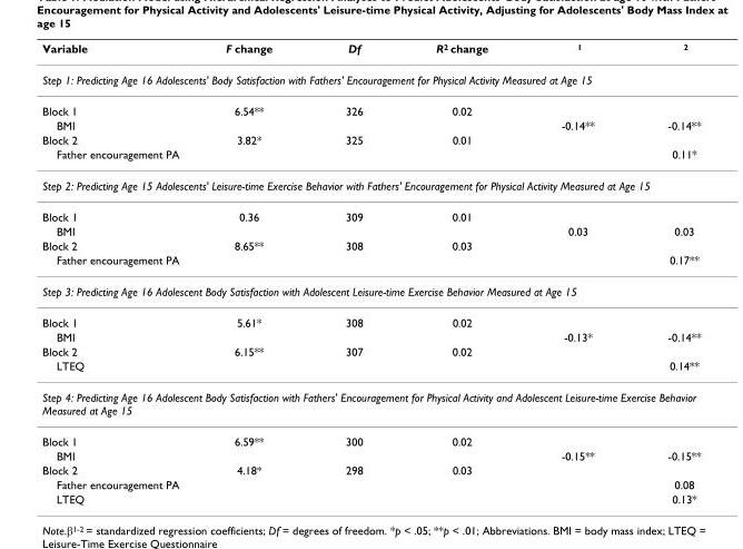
<table><thead><tr><td>Variable</td><td>F change</td><td>Df</td><td>R2 change</td><td>1</td><td>2</td></tr></thead><tbody><tr><td colspan="6">Step 1: Predicting Age 16 Adolescents&#x27; Body Satisfaction with Fathers&#x27; Encouragement for Physical Activity Measured at Age 15</td></tr><tr><td>Block 1</td><td>6.54**</td><td>326</td><td>0.02</td><td></td><td></td></tr><tr><td>BMI</td><td></td><td></td><td></td><td>-0.14**</td><td>-0.14**</td></tr><tr><td>Block 2</td><td>3.82*</td><td>325</td><td>0.01</td><td></td><td></td></tr><tr><td>Father encouragement PA</td><td></td><td></td><td></td><td></td><td>0.11*</td></tr><tr><td colspan="6">Step 2: Predicting Age 15 Adolescents&#x27; Leisure-time Exercise Behavior with Fathers&#x27; Encouragement for Physical Activity Measured at Age 15</td></tr><tr><td>Block 1</td><td>0.36</td><td>309</td><td>0.01</td><td></td><td></td></tr><tr><td>BMI</td><td></td><td></td><td></td><td>0.03</td><td>0.03</td></tr><tr><td>Block 2</td><td>8.65**</td><td>308</td><td>0.03</td><td></td><td></td></tr><tr><td>Father encouragement PA</td><td></td><td></td><td></td><td></td><td>0.17**</td></tr><tr><td colspan="6">Step 3: Predicting Age 16 Adolescent Body Satisfaction with Adolescent Leisure-time Exercise Behavior Measured at Age 15</td></tr><tr><td>Block 1</td><td>5.61*</td><td>308</td><td>0.02</td><td></td><td></td></tr><tr><td>BMI</td><td></td><td></td><td></td><td>-0.13*</td><td>-0.14**</td></tr><tr><td>Block 2</td><td>6.15**</td><td>307</td><td>0.02</td><td></td><td></td></tr><tr><td>LTEQ</td><td></td><td></td><td></td><td></td><td>0.14**</td></tr><tr><td colspan="6">Step 4: Predicting Age 16 Adolescent Body Satisfaction with Fathers&#x27; Encouragement for Physical Activity and Adolescent Leisure-time Exercise Behavior Measured at Age 15</td></tr><tr><td>Block 1</td><td>6.59**</td><td>300</td><td>0.02</td><td></td><td></td></tr><tr><td>BMI</td><td></td><td></td><td></td><td>-0.15**</td><td>-0.15**</td></tr><tr><td>Block 2</td><td>4.18*</td><td>298</td><td>0.03</td><td></td><td></td></tr><tr><td>Father encouragement PA</td><td></td><td></td><td></td><td></td><td>0.08</td></tr><tr><td>LTEQ</td><td></td><td></td><td></td><td></td><td>0.13*</td></tr></tbody></table>